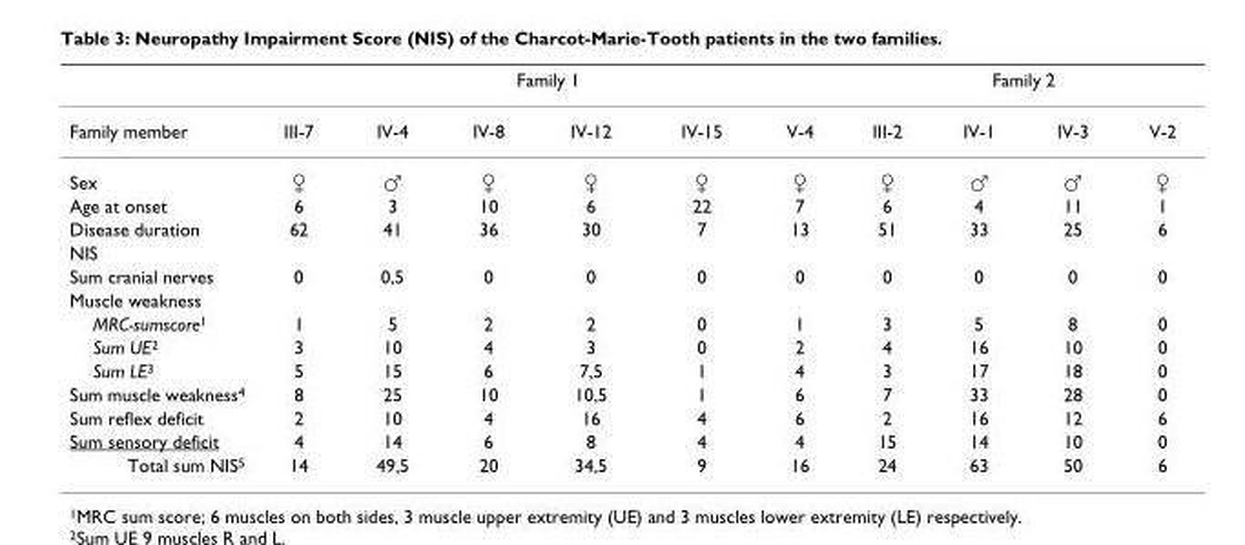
<table><thead><tr><td rowspan="2">Family member</td><td colspan="6">Family 1</td><td colspan="4">Family 2</td></tr><tr><td>III-7</td><td>IV-4</td><td>IV-8</td><td>IV-12</td><td>IV-15</td><td>V-4</td><td>III-2</td><td>IV-1</td><td>IV-3</td><td>V-2</td></tr></thead><tbody><tr><td>Sex</td><td>♀</td><td>♂</td><td>♀</td><td>♀</td><td>♀</td><td>♀</td><td>♀</td><td>♂</td><td>♂</td><td>♀</td></tr><tr><td>Age at onset</td><td>6</td><td>3</td><td>10</td><td>6</td><td>22</td><td>7</td><td>6</td><td>4</td><td>11</td><td>1</td></tr><tr><td>Disease duration</td><td>62</td><td>41</td><td>36</td><td>30</td><td>7</td><td>13</td><td>51</td><td>33</td><td>25</td><td>6</td></tr><tr><td colspan="11">NIS</td></tr><tr><td>Sum cranial nerves</td><td>0</td><td>0,5</td><td>0</td><td>0</td><td>0</td><td>0</td><td>0</td><td>0</td><td>0</td><td>0</td></tr><tr><td colspan="11">Muscle weakness</td></tr><tr><td>MRC-sumscore<sup>1</sup></td><td>1</td><td>5</td><td>2</td><td>2</td><td>0</td><td>1</td><td>3</td><td>5</td><td>8</td><td>0</td></tr><tr><td>Sum UE<sup>2</sup></td><td>3</td><td>10</td><td>4</td><td>3</td><td>0</td><td>2</td><td>4</td><td>16</td><td>10</td><td>0</td></tr><tr><td>Sum LE<sup>3</sup></td><td>5</td><td>15</td><td>6</td><td>7,5</td><td>1</td><td>4</td><td>3</td><td>17</td><td>18</td><td>0</td></tr><tr><td>Sum muscle weakness<sup>4</sup></td><td>8</td><td>25</td><td>10</td><td>10,5</td><td>1</td><td>6</td><td>7</td><td>33</td><td>28</td><td>0</td></tr><tr><td>Sum reflex deficit</td><td>2</td><td>10</td><td>4</td><td>16</td><td>4</td><td>6</td><td>2</td><td>16</td><td>12</td><td>6</td></tr><tr><td>Sum sensory deficit</td><td>4</td><td>14</td><td>6</td><td>8</td><td>4</td><td>4</td><td>15</td><td>14</td><td>10</td><td>0</td></tr><tr><td>Total sum NIS<sup>5</sup></td><td>14</td><td>49,5</td><td>20</td><td>34,5</td><td>9</td><td>16</td><td>24</td><td>63</td><td>50</td><td>6</td></tr></tbody></table>